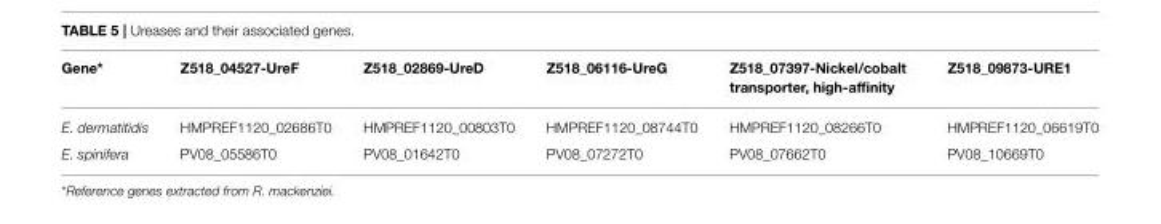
<table><thead><tr><td>Gene*</td><td>Z518_04527-UreF</td><td>Z518_02869-UreD</td><td>Z518_06116-UreG</td><td>Z518_07397-Nickel/cobalt transporter, high-affinity</td><td>Z518_09873-URE1</td></tr></thead><tbody><tr><td>E. dermatitidis</td><td>HMPREF1120_02686T0</td><td>HMPREF1120_00803T0</td><td>HMPREF1120_08744T0</td><td>HMPREF1120_08266T0</td><td>HMPREF1120_06619T0</td></tr><tr><td>E. spinifera</td><td>PV08_05586T0</td><td>PV08_01642T0</td><td>PV08_07272T0</td><td>PV08_07662T0</td><td>PV08_10669T0</td></tr></tbody></table>